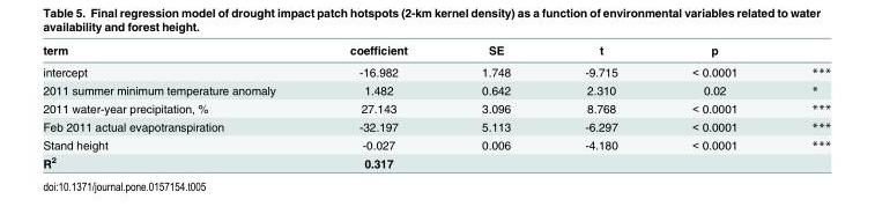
<table><thead><tr><td>term</td><td>coefficient</td><td>SE</td><td>t</td><td>p</td><td></td></tr></thead><tbody><tr><td>intercept</td><td>-16.982</td><td>1.748</td><td>-9.715</td><td>&lt; 0.0001</td><td>***</td></tr><tr><td>2011 summer minimum temperature anomaly</td><td>1.482</td><td>0.642</td><td>2.310</td><td>0.02</td><td>*</td></tr><tr><td>2011 water-year precipitation, %</td><td>27.143</td><td>3.096</td><td>8.768</td><td>&lt; 0.0001</td><td>***</td></tr><tr><td>Feb 2011 actual evapotranspiration</td><td>-32.197</td><td>5.113</td><td>-6.297</td><td>&lt; 0.0001</td><td>***</td></tr><tr><td>Stand height</td><td>-0.027</td><td>0.006</td><td>-4.180</td><td>&lt; 0.0001</td><td>***</td></tr><tr><td>R<sup>2</sup></td><td>0.317</td><td></td><td></td><td></td><td></td></tr></tbody></table>